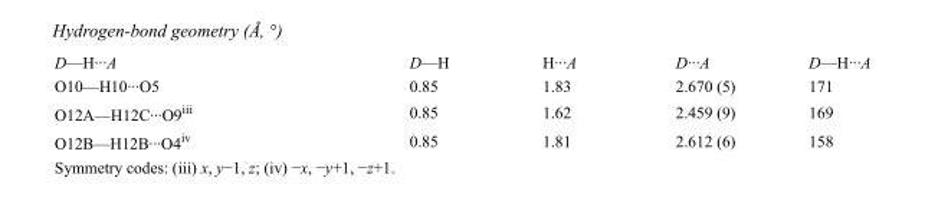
<table><tbody><tr><td>D—H···A</td><td>D—H</td><td>H···A</td><td>D···A</td><td>D—H···A</td></tr><tr><td>O10—H10···O5</td><td>0.85</td><td>1.83</td><td>2.670 (5)</td><td>171</td></tr><tr><td>O12A—H12C···O9<sup>iii</sup></td><td>0.85</td><td>1.62</td><td>2.459 (9)</td><td>169</td></tr><tr><td>O12B—H12B···O4<sup>iv</sup></td><td>0.85</td><td>1.81</td><td>2.612 (6)</td><td>158</td></tr></tbody></table>